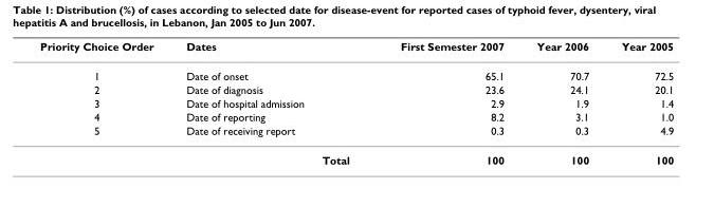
<table><thead><tr><td>Priority Choice Order</td><td>Dates</td><td>First Semester 2007</td><td>Year 2006</td><td>Year 2005</td></tr></thead><tbody><tr><td>1</td><td>Date of onset</td><td>65.1</td><td>70.7</td><td>72.5</td></tr><tr><td>2</td><td>Date of diagnosis</td><td>23.6</td><td>24.1</td><td>20.1</td></tr><tr><td>3</td><td>Date of hospital admission</td><td>2.9</td><td>1.9</td><td>1.4</td></tr><tr><td>4</td><td>Date of reporting</td><td>8.2</td><td>3.1</td><td>1.0</td></tr><tr><td rowspan="2">5</td><td>Date of receiving report</td><td>0.3</td><td>0.3</td><td>4.9</td></tr><tr><td>Total</td><td>100</td><td>100</td><td>100</td></tr></tbody></table>